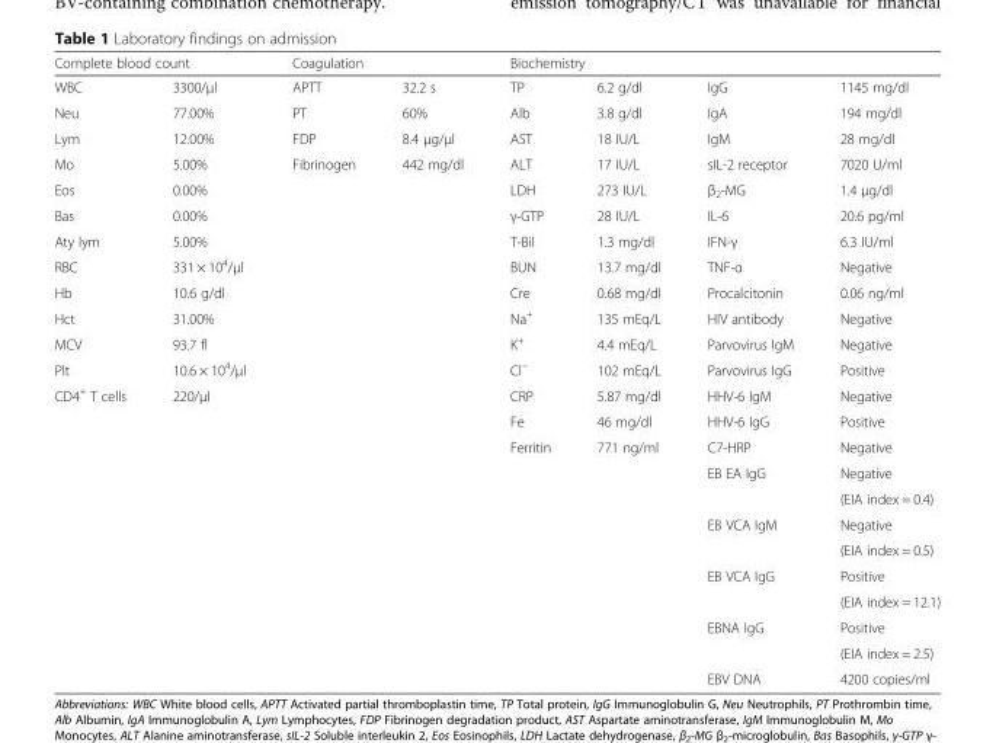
<table><thead><tr><td colspan="2">Complete blood count</td><td colspan="2">Coagulation</td><td colspan="4">Biochemistry</td></tr><tr><td>WBC</td><td>3300/μl</td><td>APTT</td><td>32.2 s</td><td>TP</td><td>6.2 g/dl</td><td>IgG</td><td>1145 mg/dl</td></tr></thead><tbody><tr><td>Neu</td><td>77.00%</td><td>PT</td><td>60%</td><td>Alb</td><td>3.8 g/dl</td><td>IgA</td><td>194 mg/dl</td></tr><tr><td>Lym</td><td>12.00%</td><td>FDP</td><td>8.4 μg/μl</td><td>AST</td><td>18 IU/L</td><td>IgM</td><td>28 mg/dl</td></tr><tr><td>Mo</td><td>5.00%</td><td>Fibrinogen</td><td>442 mg/dl</td><td>ALT</td><td>17 IU/L</td><td>sIL-2 receptor</td><td>7020 U/ml</td></tr><tr><td>Eos</td><td>0.00%</td><td></td><td></td><td>LDH</td><td>273 IU/L</td><td>β<sub>2</sub>-MG</td><td>1.4 μg/dl</td></tr><tr><td>Bas</td><td>0.00%</td><td></td><td></td><td>γ-GTP</td><td>28 IU/L</td><td>IL-6</td><td>20.6 pg/ml</td></tr><tr><td>Aty lym</td><td>5.00%</td><td></td><td></td><td>T-Bil</td><td>1.3 mg/dl</td><td>IFN-γ</td><td>6.3 IU/ml</td></tr><tr><td>RBC</td><td>331 × 10<sup>4</sup>/μl</td><td></td><td></td><td>BUN</td><td>13.7 mg/dl</td><td>TNF-α</td><td>Negative</td></tr><tr><td>Hb</td><td>10.6 g/dl</td><td></td><td></td><td>Cre</td><td>0.68 mg/dl</td><td>Procalcitonin</td><td>0.06 ng/ml</td></tr><tr><td>Hct</td><td>31.00%</td><td></td><td></td><td>Na<sup>+</sup></td><td>135 mEq/L</td><td>HIV antibody</td><td>Negative</td></tr><tr><td>MCV</td><td>93.7 fl</td><td></td><td></td><td>K<sup>+</sup></td><td>4.4 mEq/L</td><td>Parvovirus IgM</td><td>Negative</td></tr><tr><td>Plt</td><td>10.6 × 10<sup>4</sup>/μl</td><td></td><td></td><td>Cl<sup>−</sup></td><td>102 mEq/L</td><td>Parvovirus IgG</td><td>Positive</td></tr><tr><td rowspan="12">CD4<sup>+</sup> T cells</td><td>220/μl</td><td></td><td></td><td>CRP</td><td>5.87 mg/dl</td><td>HHV-6 IgM</td><td>Negative</td></tr><tr><td></td><td></td><td></td><td>Fe</td><td>46 mg/dl</td><td>HHV-6 IgG</td><td>Positive</td></tr><tr><td></td><td></td><td></td><td>Ferritin</td><td>771 ng/ml</td><td>C7-HRP</td><td>Negative</td></tr><tr><td rowspan="2"></td><td rowspan="2"></td><td rowspan="2"></td><td rowspan="2"></td><td rowspan="2"></td><td rowspan="2">EB EA IgG</td><td>Negative</td></tr><tr><td>(EIA index = 0.4)</td></tr><tr><td rowspan="2"></td><td rowspan="2"></td><td rowspan="2"></td><td rowspan="2"></td><td rowspan="2"></td><td rowspan="2">EB VCA IgM</td><td>Negative</td></tr><tr><td>(EIA index = 0.5)</td></tr><tr><td rowspan="2"></td><td rowspan="2"></td><td rowspan="2"></td><td rowspan="2"></td><td rowspan="2"></td><td rowspan="2">EB VCA IgG</td><td>Positive</td></tr><tr><td>(EIA index = 12.1)</td></tr><tr><td rowspan="2"></td><td rowspan="2"></td><td rowspan="2"></td><td rowspan="2"></td><td rowspan="2"></td><td rowspan="2">EBNA IgG</td><td>Positive</td></tr><tr><td>(EIA index = 2.5)</td></tr><tr><td></td><td></td><td></td><td></td><td></td><td>EBV DNA</td><td>4200 copies/ml</td></tr></tbody></table>